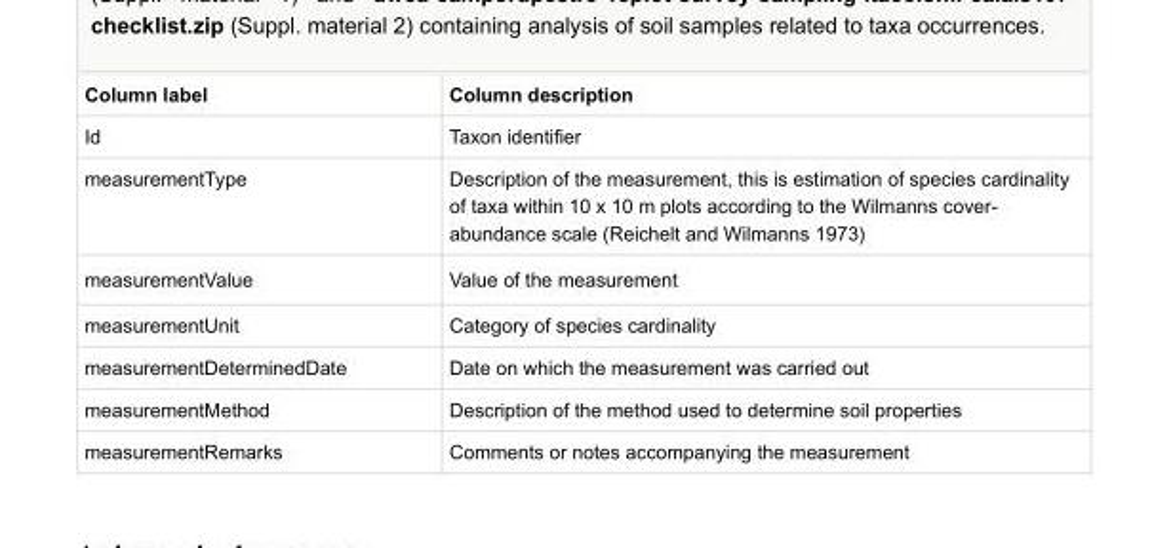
<table><tbody><tr><td>Column label</td><td>Column description</td></tr><tr><td>Id</td><td>Taxon identifier</td></tr><tr><td>measurementType</td><td>Description of the measurement, this is estimation of species cardinality of taxa within 10 x 10 m plots according to the Wilmanns cover- abundance scale (Reichelt and Wilmanns 1973)</td></tr><tr><td>measurementValue</td><td>Value of the measurement</td></tr><tr><td>measurementUnit</td><td>Category of species cardinality</td></tr><tr><td>measurementDeterminedDate</td><td>Date on which the measurement was carried out</td></tr><tr><td>measurementMethod</td><td>Description of the method used to determine soil properties</td></tr><tr><td>measurementRemarks</td><td>Comments or notes accompanying the measurement</td></tr></tbody></table>